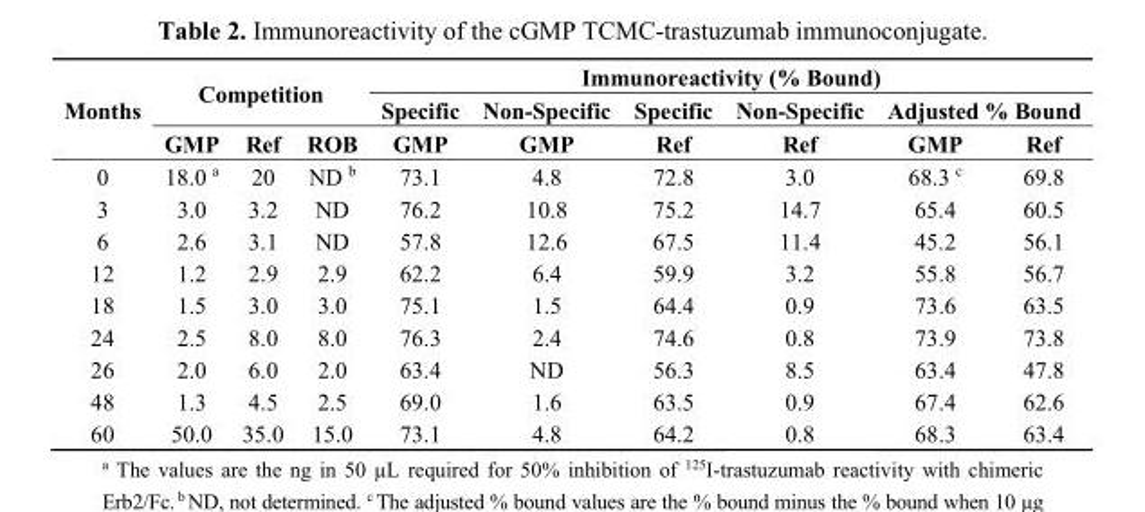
<table><thead><tr><td rowspan="3">Months</td><td rowspan="2" colspan="3">Competition</td><td colspan="6">Immunoreactivity (% Bound)</td></tr><tr><td rowspan="2">Specific GMP</td><td rowspan="2">Non-Specific GMP</td><td rowspan="2">Specific Ref</td><td rowspan="2">Non-Specific Ref</td><td colspan="2">Adjusted % Bound</td></tr><tr><td>GMP</td><td>Ref</td><td>ROB</td><td>GMP</td><td>Ref</td></tr></thead><tbody><tr><td>0</td><td>18.0 <sup>a</sup></td><td>20</td><td>ND <sup>b</sup></td><td>73.1</td><td>4.8</td><td>72.8</td><td>3.0</td><td>68.3 <sup>c</sup></td><td>69.8</td></tr><tr><td>3</td><td>3.0</td><td>3.2</td><td>ND</td><td>76.2</td><td>10.8</td><td>75.2</td><td>14.7</td><td>65.4</td><td>60.5</td></tr><tr><td>6</td><td>2.6</td><td>3.1</td><td>ND</td><td>57.8</td><td>12.6</td><td>67.5</td><td>11.4</td><td>45.2</td><td>56.1</td></tr><tr><td>12</td><td>1.2</td><td>2.9</td><td>2.9</td><td>62.2</td><td>6.4</td><td>59.9</td><td>3.2</td><td>55.8</td><td>56.7</td></tr><tr><td>18</td><td>1.5</td><td>3.0</td><td>3.0</td><td>75.1</td><td>1.5</td><td>64.4</td><td>0.9</td><td>73.6</td><td>63.5</td></tr><tr><td>24</td><td>2.5</td><td>8.0</td><td>8.0</td><td>76.3</td><td>2.4</td><td>74.6</td><td>0.8</td><td>73.9</td><td>73.8</td></tr><tr><td>26</td><td>2.0</td><td>6.0</td><td>2.0</td><td>63.4</td><td>ND</td><td>56.3</td><td>8.5</td><td>63.4</td><td>47.8</td></tr><tr><td>48</td><td>1.3</td><td>4.5</td><td>2.5</td><td>69.0</td><td>1.6</td><td>63.5</td><td>0.9</td><td>67.4</td><td>62.6</td></tr><tr><td>60</td><td>50.0</td><td>35.0</td><td>15.0</td><td>73.1</td><td>4.8</td><td>64.2</td><td>0.8</td><td>68.3</td><td>63.4</td></tr></tbody></table>